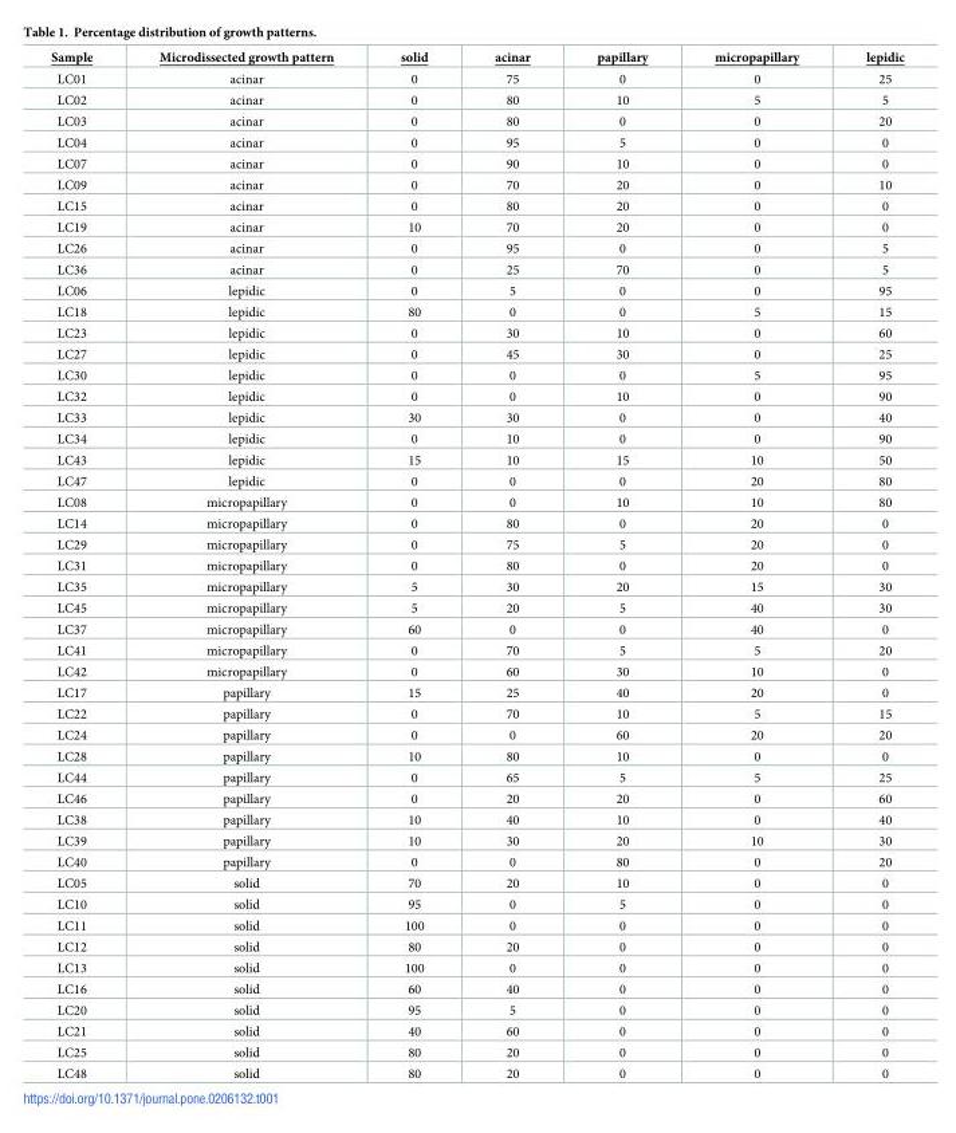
<table><thead><tr><td>Sample</td><td>Microdissected growth pattern</td><td>solid</td><td>acinar</td><td>papillary</td><td>micropapillary</td><td>lepidic</td></tr></thead><tbody><tr><td>LC01</td><td>acinar</td><td>0</td><td>75</td><td>0</td><td>0</td><td>25</td></tr><tr><td>LC02</td><td>acinar</td><td>0</td><td>80</td><td>10</td><td>5</td><td>5</td></tr><tr><td>LC03</td><td>acinar</td><td>0</td><td>80</td><td>0</td><td>0</td><td>20</td></tr><tr><td>LC04</td><td>acinar</td><td>0</td><td>95</td><td>5</td><td>0</td><td>0</td></tr><tr><td>LC07</td><td>acinar</td><td>0</td><td>90</td><td>10</td><td>0</td><td>0</td></tr><tr><td>LC09</td><td>acinar</td><td>0</td><td>70</td><td>20</td><td>0</td><td>10</td></tr><tr><td>LC15</td><td>acinar</td><td>0</td><td>80</td><td>20</td><td>0</td><td>0</td></tr><tr><td>LC19</td><td>acinar</td><td>10</td><td>70</td><td>20</td><td>0</td><td>0</td></tr><tr><td>LC26</td><td>acinar</td><td>0</td><td>95</td><td>0</td><td>0</td><td>5</td></tr><tr><td>LC36</td><td>acinar</td><td>0</td><td>25</td><td>70</td><td>0</td><td>5</td></tr><tr><td>LC06</td><td>lepidic</td><td>0</td><td>5</td><td>0</td><td>0</td><td>95</td></tr><tr><td>LC18</td><td>lepidic</td><td>80</td><td>0</td><td>0</td><td>5</td><td>15</td></tr><tr><td>LC23</td><td>lepidic</td><td>0</td><td>30</td><td>10</td><td>0</td><td>60</td></tr><tr><td>LC27</td><td>lepidic</td><td>0</td><td>45</td><td>30</td><td>0</td><td>25</td></tr><tr><td>LC30</td><td>lepidic</td><td>0</td><td>0</td><td>0</td><td>5</td><td>95</td></tr><tr><td>LC32</td><td>lepidic</td><td>0</td><td>0</td><td>10</td><td>0</td><td>90</td></tr><tr><td>LC33</td><td>lepidic</td><td>30</td><td>30</td><td>0</td><td>0</td><td>40</td></tr><tr><td>LC34</td><td>lepidic</td><td>0</td><td>10</td><td>0</td><td>0</td><td>90</td></tr><tr><td>LC43</td><td>lepidic</td><td>15</td><td>10</td><td>15</td><td>10</td><td>50</td></tr><tr><td>LC47</td><td>lepidic</td><td>0</td><td>0</td><td>0</td><td>20</td><td>80</td></tr><tr><td>LC08</td><td>micropapillary</td><td>0</td><td>0</td><td>10</td><td>10</td><td>80</td></tr><tr><td>LC14</td><td>micropapillary</td><td>0</td><td>80</td><td>0</td><td>20</td><td>0</td></tr><tr><td>LC29</td><td>micropapillary</td><td>0</td><td>75</td><td>5</td><td>20</td><td>0</td></tr><tr><td>LC31</td><td>micropapillary</td><td>0</td><td>80</td><td>0</td><td>20</td><td>0</td></tr><tr><td>LC35</td><td>micropapillary</td><td>5</td><td>30</td><td>20</td><td>15</td><td>30</td></tr><tr><td>LC45</td><td>micropapillary</td><td>5</td><td>20</td><td>5</td><td>40</td><td>30</td></tr><tr><td>LC37</td><td>micropapillary</td><td>60</td><td>0</td><td>0</td><td>40</td><td>0</td></tr><tr><td>LC41</td><td>micropapillary</td><td>0</td><td>70</td><td>5</td><td>5</td><td>20</td></tr><tr><td>LC42</td><td>micropapillary</td><td>0</td><td>60</td><td>30</td><td>10</td><td>0</td></tr><tr><td>LC17</td><td>papillary</td><td>15</td><td>25</td><td>40</td><td>20</td><td>0</td></tr><tr><td>LC22</td><td>papillary</td><td>0</td><td>70</td><td>10</td><td>5</td><td>15</td></tr><tr><td>LC24</td><td>papillary</td><td>0</td><td>0</td><td>60</td><td>20</td><td>20</td></tr><tr><td>LC28</td><td>papillary</td><td>10</td><td>80</td><td>10</td><td>0</td><td>0</td></tr><tr><td>LC44</td><td>papillary</td><td>0</td><td>65</td><td>5</td><td>5</td><td>25</td></tr><tr><td>LC46</td><td>papillary</td><td>0</td><td>20</td><td>20</td><td>0</td><td>60</td></tr><tr><td>LC38</td><td>papillary</td><td>10</td><td>40</td><td>10</td><td>0</td><td>40</td></tr><tr><td>LC39</td><td>papillary</td><td>10</td><td>30</td><td>20</td><td>10</td><td>30</td></tr><tr><td>LC40</td><td>papillary</td><td>0</td><td>0</td><td>80</td><td>0</td><td>20</td></tr><tr><td>LC05</td><td>solid</td><td>70</td><td>20</td><td>10</td><td>0</td><td>0</td></tr><tr><td>LC10</td><td>solid</td><td>95</td><td>0</td><td>5</td><td>0</td><td>0</td></tr><tr><td>LC11</td><td>solid</td><td>100</td><td>0</td><td>0</td><td>0</td><td>0</td></tr><tr><td>LC12</td><td>solid</td><td>80</td><td>20</td><td>0</td><td>0</td><td>0</td></tr><tr><td>LC13</td><td>solid</td><td>100</td><td>0</td><td>0</td><td>0</td><td>0</td></tr><tr><td>LC16</td><td>solid</td><td>60</td><td>40</td><td>0</td><td>0</td><td>0</td></tr><tr><td>LC20</td><td>solid</td><td>95</td><td>5</td><td>0</td><td>0</td><td>0</td></tr><tr><td>LC21</td><td>solid</td><td>40</td><td>60</td><td>0</td><td>0</td><td>0</td></tr><tr><td>LC25</td><td>solid</td><td>80</td><td>20</td><td>0</td><td>0</td><td>0</td></tr><tr><td>LC48</td><td>solid</td><td>80</td><td>20</td><td>0</td><td>0</td><td>0</td></tr></tbody></table>